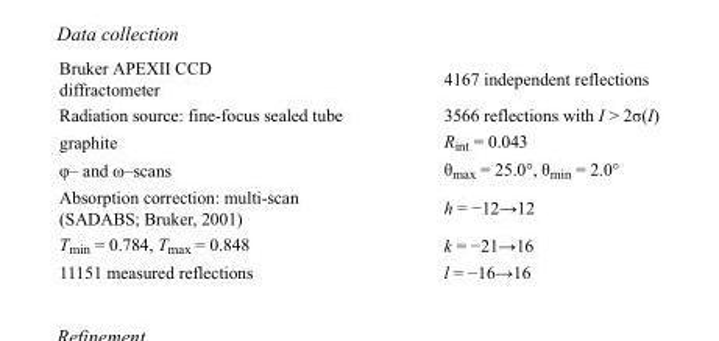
<table><tbody><tr><td>Bruker APEXII CCD diffractometer</td><td>4167 independent reflections</td></tr><tr><td>Radiation source: fine-focus sealed tube</td><td>3566 reflections with I &gt; 2σ(I)</td></tr><tr><td>graphite</td><td>R<sub>int</sub> = 0.043</td></tr><tr><td>φ– and ω–scans</td><td>θ<sub>max</sub> = 25.0°, θ<sub>min</sub> = 2.0°</td></tr><tr><td>Absorption correction: multi-scan (SADABS; Bruker, 2001)</td><td>h = −12→12</td></tr><tr><td>T<sub>min</sub> = 0.784, T<sub>max</sub> = 0.848</td><td>k = −21→16</td></tr><tr><td>11151 measured reflections</td><td>l = −16→16</td></tr></tbody></table>